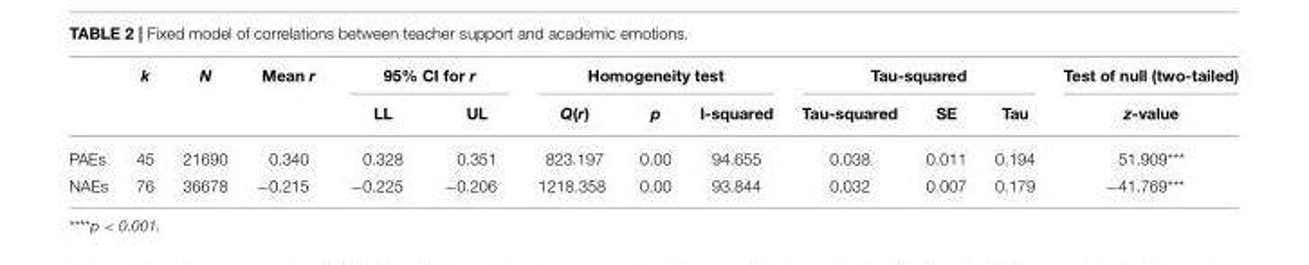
<table><thead><tr><td rowspan="2"></td><td rowspan="2">k</td><td rowspan="2">N</td><td rowspan="2">Mean r</td><td colspan="2">95% CI for r</td><td colspan="3">Homogeneity test</td><td colspan="3">Tau-squared</td><td rowspan="2">Test of null (two-tailed) z-value</td></tr><tr><td>LL</td><td>UL</td><td>Q(r)</td><td>p</td><td>I-squared</td><td>Tau-squared</td><td>SE</td><td>Tau</td></tr></thead><tbody><tr><td>PAEs</td><td>45</td><td>21690</td><td>0.340</td><td>0.328</td><td>0.351</td><td>823.197</td><td>0.00</td><td>94.655</td><td>0.038</td><td>0.011</td><td>0.194</td><td>51.909***</td></tr><tr><td>NAEs</td><td>76</td><td>36678</td><td>−0.215</td><td>−0.225</td><td>−0.206</td><td>1218.358</td><td>0.00</td><td>93.844</td><td>0.032</td><td>0.007</td><td>0.179</td><td>−41.769***</td></tr></tbody></table>